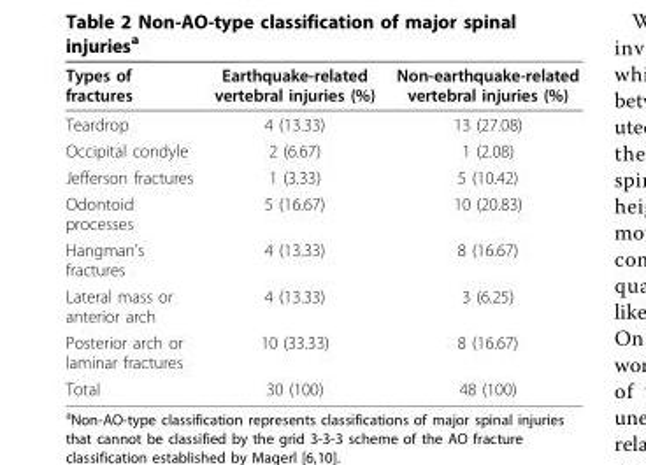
<table><thead><tr><td>Types of fractures</td><td>Earthquake-related vertebral injuries (%)</td><td>Non-earthquake-related vertebral injuries (%)</td></tr></thead><tbody><tr><td>Teardrop</td><td>4 (13.33)</td><td>13 (27.08)</td></tr><tr><td>Occipital condyle</td><td>2 (6.67)</td><td>1 (2.08)</td></tr><tr><td>Jefferson fractures</td><td>1 (3.33)</td><td>5 (10.42)</td></tr><tr><td>Odontoid processes</td><td>5 (16.67)</td><td>10 (20.83)</td></tr><tr><td>Hangman’s fractures</td><td>4 (13.33)</td><td>8 (16.67)</td></tr><tr><td>Lateral mass or anterior arch</td><td>4 (13.33)</td><td>3 (6.25)</td></tr><tr><td>Posterior arch or laminar fractures</td><td>10 (33.33)</td><td>8 (16.67)</td></tr><tr><td>Total</td><td>30 (100)</td><td>48 (100)</td></tr></tbody></table>